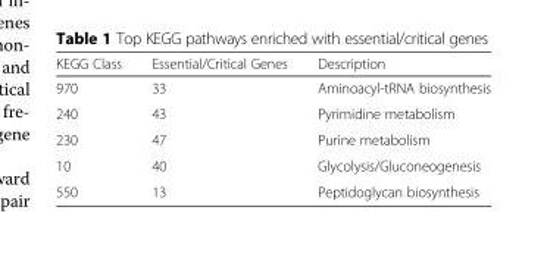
<table><thead><tr><td>KEGG Class</td><td>Essential/Critical Genes</td><td>Description</td></tr></thead><tbody><tr><td>970</td><td>33</td><td>Aminoacyl-tRNA biosynthesis</td></tr><tr><td>240</td><td>43</td><td>Pyrimidine metabolism</td></tr><tr><td>230</td><td>47</td><td>Purine metabolism</td></tr><tr><td>10</td><td>40</td><td>Glycolysis/Gluconeogenesis</td></tr><tr><td>550</td><td>13</td><td>Peptidoglycan biosynthesis</td></tr></tbody></table>